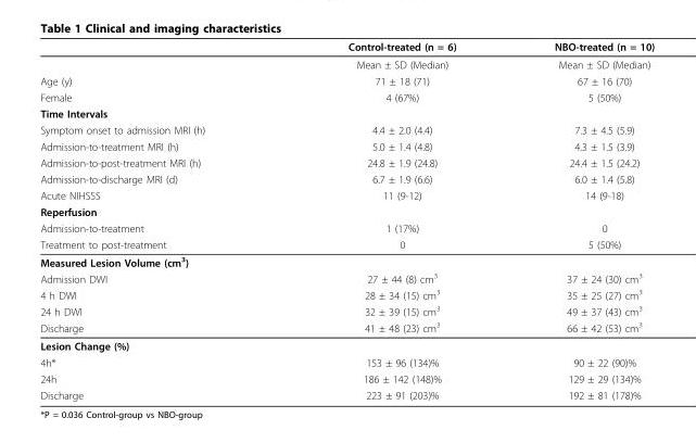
<table><thead><tr><td></td><td>Control-treated (n = 6)</td><td>NBO-treated (n = 10)</td></tr></thead><tbody><tr><td></td><td>Mean ± SD (Median)</td><td>Mean ± SD (Median)</td></tr><tr><td>Age (y)</td><td>71 ± 18 (71)</td><td>67 ± 16 (70)</td></tr><tr><td>Female</td><td>4 (67%)</td><td>5 (50%)</td></tr><tr><td colspan="3">Time Intervals</td></tr><tr><td>Symptom onset to admission MRI (h)</td><td>4.4 ± 2.0 (4.4)</td><td>7.3 ± 4.5 (5.9)</td></tr><tr><td>Admission-to-treatment MRI (h)</td><td>5.0 ± 1.4 (4.8)</td><td>4.3 ± 1.5 (3.9)</td></tr><tr><td>Admission-to-post-treatment MRI (h)</td><td>24.8 ± 1.9 (24.8)</td><td>24.4 ± 1.5 (24.2)</td></tr><tr><td>Admission-to-discharge MRI (d)</td><td>6.7 ± 1.9 (6.6)</td><td>6.0 ± 1.4 (5.8)</td></tr><tr><td>Acute NIHSSS</td><td>11 (9-12)</td><td>14 (9-18)</td></tr><tr><td colspan="3">Reperfusion</td></tr><tr><td>Admission-to-treatment</td><td>1 (17%)</td><td>0</td></tr><tr><td>Treatment to post-treatment</td><td>0</td><td>5 (50%)</td></tr><tr><td colspan="3">Measured Lesion Volume (cm<sup>3</sup>)</td></tr><tr><td>Admission DWI</td><td>27 ± 44 (8) cm<sup>3</sup></td><td>37 ± 24 (30) cm<sup>3</sup></td></tr><tr><td>4 h DWI</td><td>28 ± 34 (15) cm<sup>3</sup></td><td>35 ± 25 (27) cm<sup>3</sup></td></tr><tr><td>24 h DWI</td><td>32 ± 39 (15) cm<sup>3</sup></td><td>49 ± 37 (43) cm<sup>3</sup></td></tr><tr><td>Discharge</td><td>41 ± 48 (23) cm<sup>3</sup></td><td>66 ± 42 (53) cm<sup>3</sup></td></tr><tr><td colspan="3">Lesion Change (%)</td></tr><tr><td>4h*</td><td>153 ± 96 (134)%</td><td>90 ± 22 (90)%</td></tr><tr><td>24h</td><td>186 ± 142 (148)%</td><td>129 ± 29 (134)%</td></tr><tr><td>Discharge</td><td>223 ± 91 (203)%</td><td>192 ± 81 (178)%</td></tr></tbody></table>